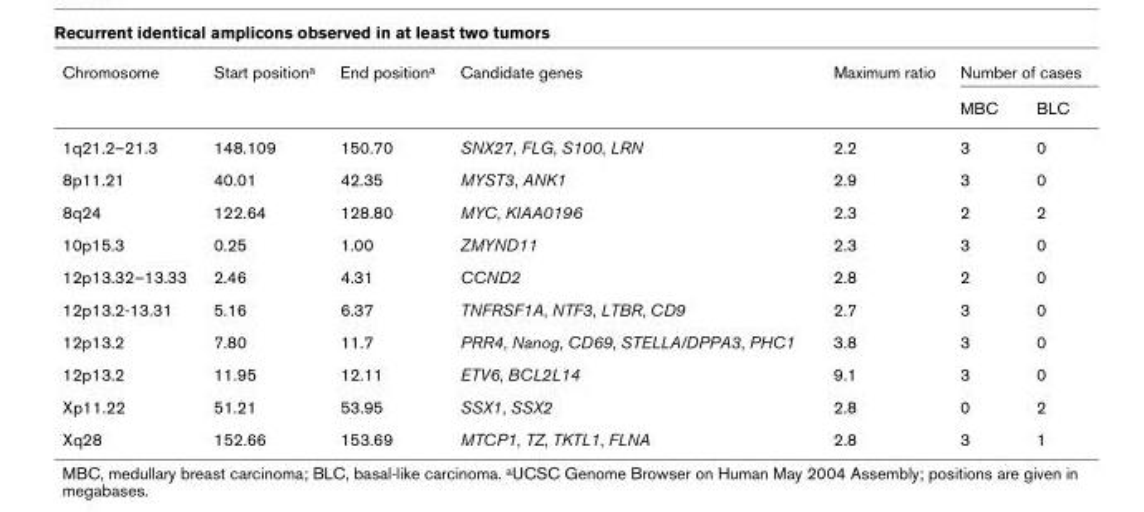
<table><thead><tr><td rowspan="2">Chromosome</td><td rowspan="2">Start positiona</td><td rowspan="2">End positiona</td><td rowspan="2">Candidate genes</td><td rowspan="2">Maximum ratio</td><td colspan="2">Number of cases</td></tr><tr><td>MBC</td><td>BLC</td></tr></thead><tbody><tr><td>1q21.2–21.3</td><td>148.109</td><td>150.70</td><td>SNX27, FLG, S100, LRN</td><td>2.2</td><td>3</td><td>0</td></tr><tr><td>8p11.21</td><td>40.01</td><td>42.35</td><td>MYST3, ANK1</td><td>2.9</td><td>3</td><td>0</td></tr><tr><td>8q24</td><td>122.64</td><td>128.80</td><td>MYC, KIAA0196</td><td>2.3</td><td>2</td><td>2</td></tr><tr><td>10p15.3</td><td>0.25</td><td>1.00</td><td>ZMYND11</td><td>2.3</td><td>3</td><td>0</td></tr><tr><td>12p13.32–13.33</td><td>2.46</td><td>4.31</td><td>CCND2</td><td>2.8</td><td>2</td><td>0</td></tr><tr><td>12p13.2-13.31</td><td>5.16</td><td>6.37</td><td>TNFRSF1A, NTF3, LTBR, CD9</td><td>2.7</td><td>3</td><td>0</td></tr><tr><td>12p13.2</td><td>7.80</td><td>11.7</td><td>PRR4, Nanog, CD69, STELLA/DPPA3, PHC1</td><td>3.8</td><td>3</td><td>0</td></tr><tr><td>12p13.2</td><td>11.95</td><td>12.11</td><td>ETV6, BCL2L14</td><td>9.1</td><td>3</td><td>0</td></tr><tr><td>Xp11.22</td><td>51.21</td><td>53.95</td><td>SSX1, SSX2</td><td>2.8</td><td>0</td><td>2</td></tr><tr><td>Xq28</td><td>152.66</td><td>153.69</td><td>MTCP1, TZ, TKTL1, FLNA</td><td>2.8</td><td>3</td><td>1</td></tr></tbody></table>